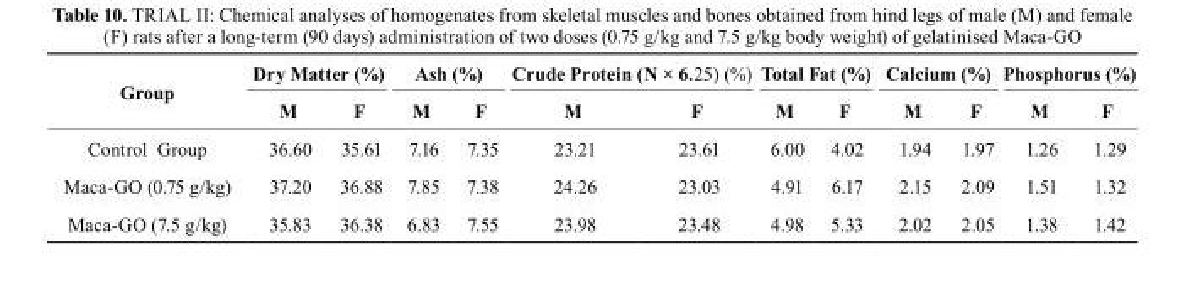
<table><thead><tr><td rowspan="2">Group</td><td colspan="2">Dry Matter (%)</td><td colspan="2">Ash (%)</td><td colspan="2">crude Protein (N × 6.25) (%)</td><td colspan="2">total Fat (%)</td><td colspan="2">calcium (%)</td><td colspan="2">Phosphorus (%)</td></tr><tr><td>M</td><td>F</td><td>M</td><td>F</td><td>M</td><td>F</td><td>M</td><td>F</td><td>M</td><td>F</td><td>M</td><td>F</td></tr></thead><tbody><tr><td>Control Group</td><td>36.60</td><td>35.61</td><td>7.16</td><td>7.35</td><td>23.21</td><td>23.61</td><td>6.00</td><td>4.02</td><td>1.94</td><td>1.97</td><td>1.26</td><td>1.29</td></tr><tr><td>Maca-GO (0.75 g/kg)</td><td>37.20</td><td>36.88</td><td>7.85</td><td>7.38</td><td>24.26</td><td>23.03</td><td>4.91</td><td>6.17</td><td>2.15</td><td>2.09</td><td>1.51</td><td>1.32</td></tr><tr><td>Maca-GO (7.5 g/kg)</td><td>35.83</td><td>36.38</td><td>6.83</td><td>7.55</td><td>23.98</td><td>23.48</td><td>4.98</td><td>5.33</td><td>2.02</td><td>2.05</td><td>1.38</td><td>1.42</td></tr></tbody></table>